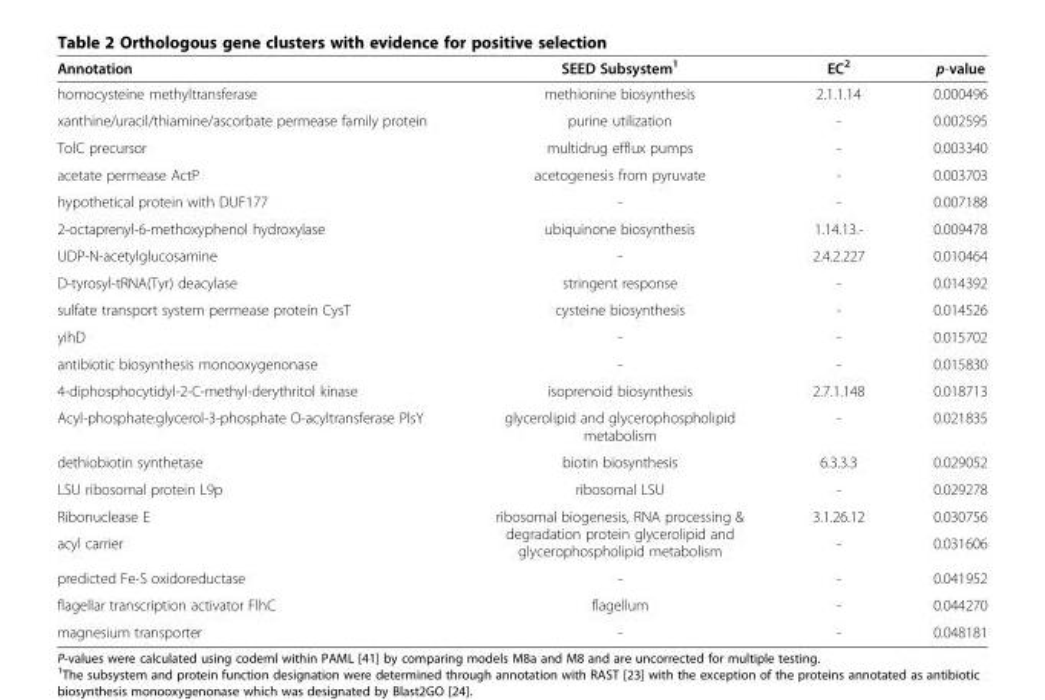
<table><thead><tr><td>Annotation</td><td>SEED Subsystem<sup>1</sup></td><td>EC<sup>2</sup></td><td>p-value</td></tr></thead><tbody><tr><td>homocysteine methyltransferase</td><td>methionine biosynthesis</td><td>2.1.1.14</td><td>0.000496</td></tr><tr><td>xanthine/uracil/thiamine/ascorbate permease family protein</td><td>purine utilization</td><td>-</td><td>0.002595</td></tr><tr><td>TolC precursor</td><td>multidrug efflux pumps</td><td>-</td><td>0.003340</td></tr><tr><td>acetate permease ActP</td><td>acetogenesis from pyruvate</td><td>-</td><td>0.003703</td></tr><tr><td>hypothetical protein with DUF177</td><td>-</td><td>-</td><td>0.007188</td></tr><tr><td>2-octaprenyl-6-methoxyphenol hydroxylase</td><td>ubiquinone biosynthesis</td><td>1.14.13.-</td><td>0.009478</td></tr><tr><td>UDP-N-acetylglucosamine</td><td>-</td><td>2.4.2.227</td><td>0.010464</td></tr><tr><td>D-tyrosyl-tRNA(Tyr) deacylase</td><td>stringent response</td><td>-</td><td>0.014392</td></tr><tr><td>sulfate transport system permease protein CysT</td><td>cysteine biosynthesis</td><td>-</td><td>0.014526</td></tr><tr><td>yihD</td><td>-</td><td>-</td><td>0.015702</td></tr><tr><td>antibiotic biosynthesis monooxygenonase</td><td>-</td><td>-</td><td>0.015830</td></tr><tr><td>4-diphosphocytidyl-2-C-methyl-derythritol kinase</td><td>isoprenoid biosynthesis</td><td>2.7.1.148</td><td>0.018713</td></tr><tr><td>Acyl-phosphate:glycerol-3-phosphate O-acyltransferase PlsY</td><td>glycerolipid and glycerophospholipid metabolism</td><td>-</td><td>0.021835</td></tr><tr><td>dethiobiotin synthetase</td><td>biotin biosynthesis</td><td>6.3.3.3</td><td>0.029052</td></tr><tr><td>LSU ribosomal protein L9p</td><td>ribosomal LSU</td><td>-</td><td>0.029278</td></tr><tr><td>Ribonuclease E</td><td rowspan="2">ribosomal biogenesis, RNA processing &amp; degradation protein glycerolipid and glycerophospholipid metabolism</td><td>3.1.26.12</td><td>0.030756</td></tr><tr><td>acyl carrier</td><td>-</td><td>0.031606</td></tr><tr><td>predicted Fe-S oxidoreductase</td><td>-</td><td>-</td><td>0.041952</td></tr><tr><td>flagellar transcription activator FlhC</td><td>flagellum</td><td>-</td><td>0.044270</td></tr><tr><td>magnesium transporter</td><td>-</td><td>-</td><td>0.048181</td></tr></tbody></table>